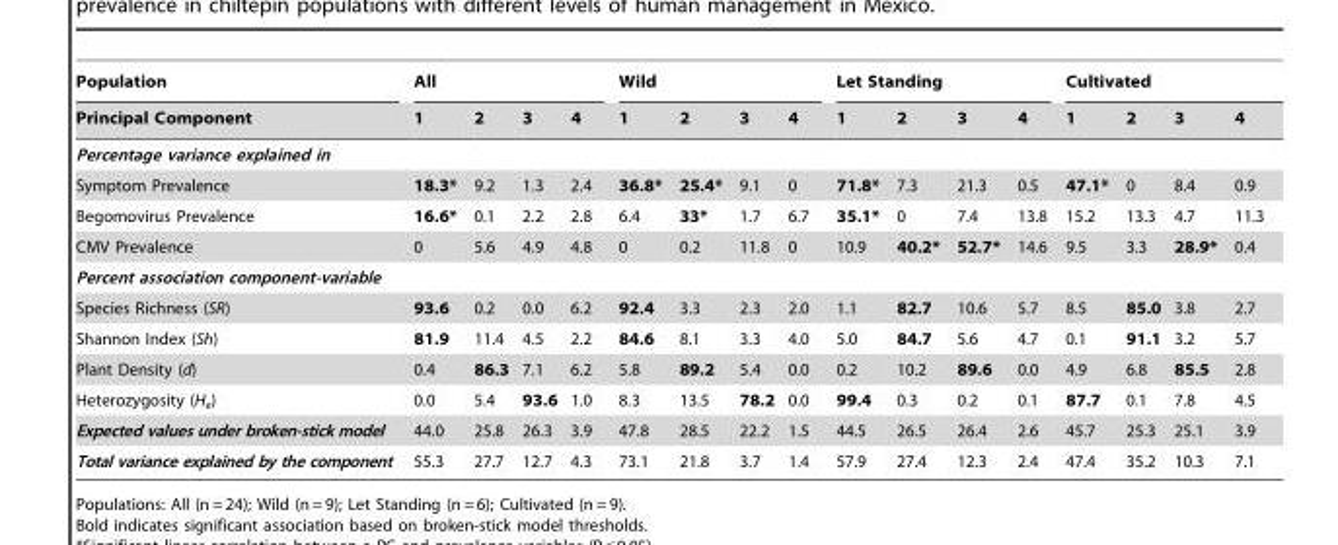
<table><thead><tr><td rowspan="2">Population Principal Component</td><td colspan="4">All</td><td colspan="4">Wild</td><td colspan="4">Let Standing</td><td colspan="4">Cultivated</td></tr><tr><td>1</td><td>2</td><td>3</td><td>4</td><td>1</td><td>2</td><td>3</td><td>4</td><td>1</td><td>2</td><td>3</td><td>4</td><td>1</td><td>2</td><td>3</td><td>4</td></tr></thead><tbody><tr><td colspan="17">Percentage variance explained in</td></tr><tr><td>Symptom Prevalence</td><td>18.3*</td><td>9.2</td><td>1.3</td><td>2.4</td><td>36.8*</td><td>25.4*</td><td>9.1</td><td>0</td><td>71.8*</td><td>7.3</td><td>21.3</td><td>0.5</td><td>47.1*</td><td>0</td><td>8.4</td><td>0.9</td></tr><tr><td>Begomovirus Prevalence</td><td>16.6*</td><td>0.1</td><td>2.2</td><td>2.8</td><td>6.4</td><td>33*</td><td>1.7</td><td>6.7</td><td>35.1*</td><td>0</td><td>7.4</td><td>13.8</td><td>15.2</td><td>13.3</td><td>4.7</td><td>11.3</td></tr><tr><td>CMV Prevalence</td><td>0</td><td>5.6</td><td>4.9</td><td>4.8</td><td>0</td><td>0.2</td><td>11.8</td><td>0</td><td>10.9</td><td>40.2*</td><td>52.7*</td><td>14.6</td><td>9.5</td><td>3.3</td><td>28.9*</td><td>0.4</td></tr><tr><td colspan="17">Percent association component-variable</td></tr><tr><td>Species Richness (SR)</td><td>93.6</td><td>0.2</td><td>0.0</td><td>6.2</td><td>92.4</td><td>3.3</td><td>2.3</td><td>2.0</td><td>1.1</td><td>82.7</td><td>10.6</td><td>5.7</td><td>8.5</td><td>85.0</td><td>3.8</td><td>2.7</td></tr><tr><td>Shannon Index (Sh)</td><td>81.9</td><td>11.4</td><td>4.5</td><td>2.2</td><td>84.6</td><td>8.1</td><td>3.3</td><td>4.0</td><td>5.0</td><td>84.7</td><td>5.6</td><td>4.7</td><td>0.1</td><td>91.1</td><td>3.2</td><td>5.7</td></tr><tr><td>Plant Density (d)</td><td>0.4</td><td>86.3</td><td>7.1</td><td>6.2</td><td>5.8</td><td>89.2</td><td>5.4</td><td>0.0</td><td>0.2</td><td>10.2</td><td>89.6</td><td>0.0</td><td>4.9</td><td>6.8</td><td>85.5</td><td>2.8</td></tr><tr><td>Heterozygosity (H<sub>e</sub>)</td><td>0.0</td><td>5.4</td><td>93.6</td><td>1.0</td><td>8.3</td><td>13.5</td><td>78.2</td><td>0.0</td><td>99.4</td><td>0.3</td><td>0.2</td><td>0.1</td><td>87.7</td><td>0.1</td><td>7.8</td><td>4.5</td></tr><tr><td>Expected values under broken-stick model</td><td>44.0</td><td>25.8</td><td>26.3</td><td>3.9</td><td>47.8</td><td>28.5</td><td>22.2</td><td>1.5</td><td>44.5</td><td>26.5</td><td>26.4</td><td>2.6</td><td>45.7</td><td>25.3</td><td>25.1</td><td>3.9</td></tr><tr><td>Total variance explained by the component</td><td>55.3</td><td>27.7</td><td>12.7</td><td>4.3</td><td>73.1</td><td>21.8</td><td>3.7</td><td>1.4</td><td>57.9</td><td>27.4</td><td>12.3</td><td>2.4</td><td>47.4</td><td>35.2</td><td>10.3</td><td>7.1</td></tr></tbody></table>